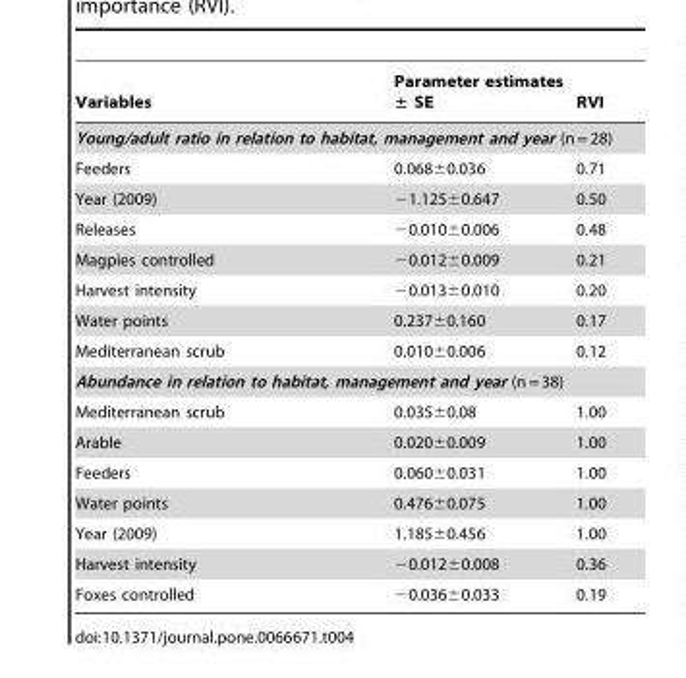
<table><thead><tr><td>Variables</td><td>Parameter estimates ± SE</td><td>RVI</td></tr></thead><tbody><tr><td colspan="3">Young/adult ratio in relation to habitat, management and year (n = 28)</td></tr><tr><td>Feeders</td><td>0.068±0.036</td><td>0.71</td></tr><tr><td>Year (2009)</td><td>−1.125±0.647</td><td>0.50</td></tr><tr><td>Releases</td><td>−0.010±0.006</td><td>0.48</td></tr><tr><td>Magpies controlled</td><td>−0.012±0.009</td><td>0.21</td></tr><tr><td>Harvest intensity</td><td>−0.013±0.010</td><td>0.20</td></tr><tr><td>Water points</td><td>0.237±0.160</td><td>0.17</td></tr><tr><td>Mediterranean scrub</td><td>0.010±0.006</td><td>0.12</td></tr><tr><td colspan="3">Abundance in relation to habitat, management and year (n = 38)</td></tr><tr><td>Mediterranean scrub</td><td>0.035±0.08</td><td>1.00</td></tr><tr><td>Arable</td><td>0.020±0.009</td><td>1.00</td></tr><tr><td>Feeders</td><td>0.060±0.031</td><td>1.00</td></tr><tr><td>Water points</td><td>0.476±0.075</td><td>1.00</td></tr><tr><td>Year (2009)</td><td>1.185±0.456</td><td>1.00</td></tr><tr><td>Harvest intensity</td><td>−0.012±0.008</td><td>0.36</td></tr><tr><td>Foxes controlled</td><td>−0.036±0.033</td><td>0.19</td></tr></tbody></table>